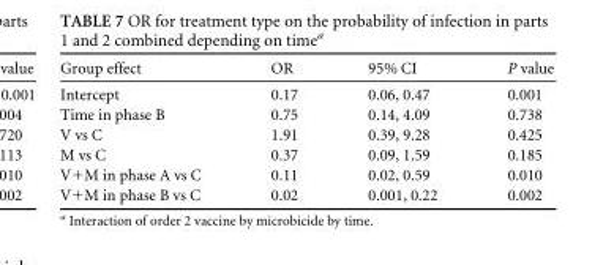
<table><thead><tr><td>Group effect</td><td>OR</td><td>95% CI</td><td>P value</td></tr></thead><tbody><tr><td>Intercept</td><td>0.17</td><td>0.06, 0.47</td><td>0.001</td></tr><tr><td>Time in phase B</td><td>0.75</td><td>0.14, 4.09</td><td>0.738</td></tr><tr><td>V vs C</td><td>1.91</td><td>0.39, 9.28</td><td>0.425</td></tr><tr><td>M vs C</td><td>0.37</td><td>0.09, 1.59</td><td>0.185</td></tr><tr><td>V+M in phase A vs C</td><td>0.11</td><td>0.02, 0.59</td><td>0.010</td></tr><tr><td>V+M in phase B vs C</td><td>0.02</td><td>0.001, 0.22</td><td>0.002</td></tr></tbody></table>